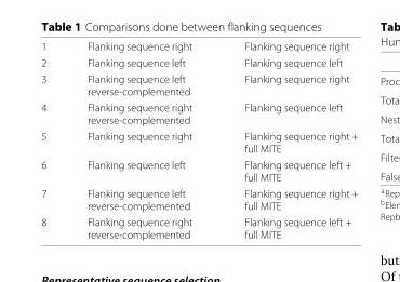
<table><tbody><tr><td>1</td><td>Flanking sequence right</td><td>Flanking sequence right</td></tr><tr><td>2</td><td>Flanking sequence left</td><td>Flanking sequence left</td></tr><tr><td>3</td><td>Flanking sequence left reverse-complemented</td><td>Flanking sequence right</td></tr><tr><td>4</td><td>Flanking sequence right reverse-complemented</td><td>Flanking sequence left</td></tr><tr><td>5</td><td>Flanking sequence right</td><td>Flanking sequence right + full MITE</td></tr><tr><td>6</td><td>Flanking sequence left</td><td>Flanking sequence left + full MITE</td></tr><tr><td>7</td><td>Flanking sequence left reverse-complemented</td><td>Flanking sequence right + full MITE</td></tr><tr><td>8</td><td>Flanking sequence right reverse-complemented</td><td>Flanking sequence left + full MITE</td></tr></tbody></table>